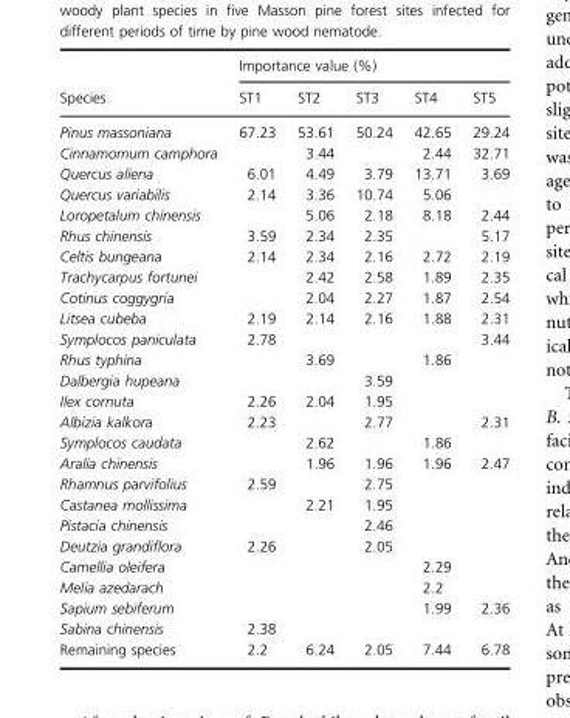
<table><thead><tr><td rowspan="2">Species</td><td colspan="5">Importance value (%)</td></tr><tr><td>ST1</td><td>ST2</td><td>ST3</td><td>ST4</td><td>ST5</td></tr></thead><tbody><tr><td>Pinus massoniana</td><td>67.23</td><td>53.61</td><td>50.24</td><td>42.65</td><td>29.24</td></tr><tr><td>Cinnamomum camphora</td><td></td><td>3.44</td><td></td><td>2.44</td><td>32.71</td></tr><tr><td>Quercus aliena</td><td>6.01</td><td>4.49</td><td>3.79</td><td>13.71</td><td>3.69</td></tr><tr><td>Quercus variabilis</td><td>2.14</td><td>3.36</td><td>10.74</td><td>5.06</td><td></td></tr><tr><td>Loropetalum chinensis</td><td></td><td>5.06</td><td>2.18</td><td>8.18</td><td>2.44</td></tr><tr><td>Rhus chinensis</td><td>3.59</td><td>2.34</td><td>2.35</td><td></td><td>5.17</td></tr><tr><td>Celtis bungeana</td><td>2.14</td><td>2.34</td><td>2.16</td><td>2.72</td><td>2.19</td></tr><tr><td>Trachycarpus fortunei</td><td></td><td>2.42</td><td>2.58</td><td>1.89</td><td>2.35</td></tr><tr><td>Cotinus coggygria</td><td></td><td>2.04</td><td>2.27</td><td>1.87</td><td>2.54</td></tr><tr><td>Litsea cubeba</td><td>2.19</td><td>2.14</td><td>2.16</td><td>1.88</td><td>2.31</td></tr><tr><td>Symplocos paniculata</td><td>2.78</td><td></td><td></td><td></td><td>3.44</td></tr><tr><td>Rhus typhina</td><td></td><td>3.69</td><td></td><td>1.86</td><td></td></tr><tr><td>Dalbergia hupeana</td><td></td><td></td><td>3.59</td><td></td><td></td></tr><tr><td>Ilex cornuta</td><td>2.26</td><td>2.04</td><td>1.95</td><td></td><td></td></tr><tr><td>Albizia kalkora</td><td>2.23</td><td></td><td>2.77</td><td></td><td>2.31</td></tr><tr><td>Symplocos caudata</td><td></td><td>2.62</td><td></td><td>1.86</td><td></td></tr><tr><td>Aralia chinensis</td><td></td><td>1.96</td><td>1.96</td><td>1.96</td><td>2.47</td></tr><tr><td>Rhamnus parvifolius</td><td>2.59</td><td></td><td>2.75</td><td></td><td></td></tr><tr><td>Castanea mollissima</td><td></td><td>2.21</td><td>1.95</td><td></td><td></td></tr><tr><td>Pistacia chinensis</td><td></td><td></td><td>2.46</td><td></td><td></td></tr><tr><td>Deutzia grandiflora</td><td>2.26</td><td></td><td>2.05</td><td></td><td></td></tr><tr><td>Camellia oleifera</td><td></td><td></td><td></td><td>2.29</td><td></td></tr><tr><td>Melia azedarach</td><td></td><td></td><td></td><td>2.2</td><td></td></tr><tr><td>Sapium sebiferum</td><td></td><td></td><td></td><td>1.99</td><td>2.36</td></tr><tr><td>Sabina chinensis</td><td>2.38</td><td></td><td></td><td></td><td></td></tr><tr><td>Remaining species</td><td>2.2</td><td>6.24</td><td>2.05</td><td>7.44</td><td>6.78</td></tr></tbody></table>